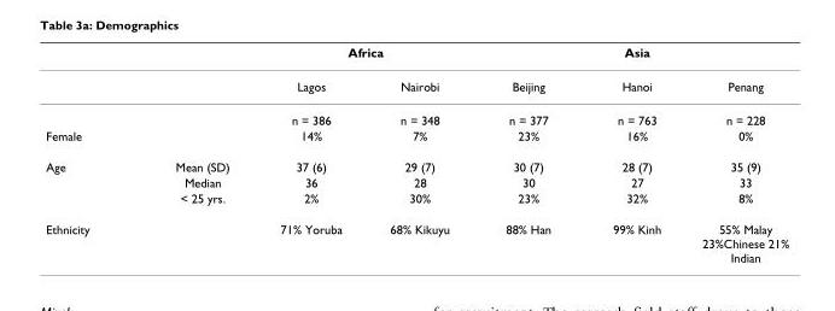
<table><thead><tr><td rowspan="2"></td><td rowspan="2"></td><td colspan="2">Africa</td><td colspan="3">Asia</td></tr><tr><td>Lagos</td><td>Nairobi</td><td>Beijing</td><td>Hanoi</td><td>Penang</td></tr></thead><tbody><tr><td></td><td></td><td>n = 386</td><td>n = 348</td><td>n = 377</td><td>n = 763</td><td>n = 228</td></tr><tr><td>Female</td><td></td><td>14%</td><td>7%</td><td>23%</td><td>16%</td><td>0%</td></tr><tr><td rowspan="3">Age</td><td>Mean (SD)</td><td>37 (6)</td><td>29 (7)</td><td>30 (7)</td><td>28 (7)</td><td>35 (9)</td></tr><tr><td>Median</td><td>36</td><td>28</td><td>30</td><td>27</td><td>33</td></tr><tr><td>&lt; 25 yrs.</td><td>2%</td><td>30%</td><td>23%</td><td>32%</td><td>8%</td></tr><tr><td>Ethnicity</td><td></td><td>71% Yoruba</td><td>68% Kikuyu</td><td>88% Han</td><td>99% Kinh</td><td>55% Malay 23%Chinese 21% Indian</td></tr></tbody></table>